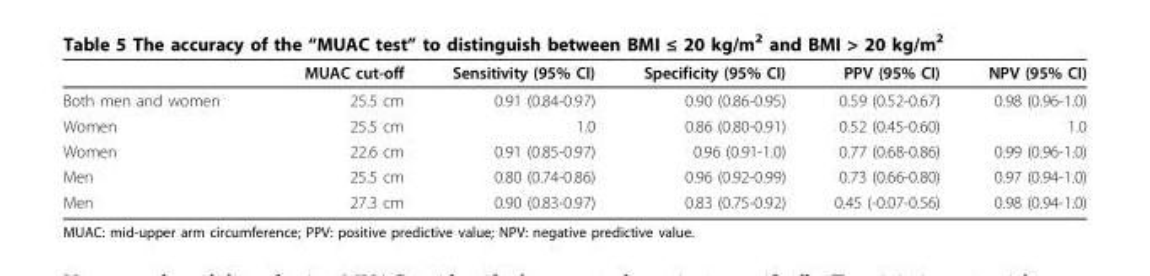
<table><thead><tr><td></td><td>MUAC cut-off</td><td>Sensitivity (95% CI)</td><td>Specificity (95% CI)</td><td>PPV (95% CI)</td><td>NPV (95% CI)</td></tr></thead><tbody><tr><td>Both men and women</td><td>25.5 cm</td><td>0.91 (0.84-0.97)</td><td>0.90 (0.86-0.95)</td><td>0.59 (0.52-0.67)</td><td>0.98 (0.96-1.0)</td></tr><tr><td>Women</td><td>25.5 cm</td><td>1.0</td><td>0.86 (0.80-0.91)</td><td>0.52 (0.45-0.60)</td><td>1.0</td></tr><tr><td>Women</td><td>22.6 cm</td><td>0.91 (0.85-0.97)</td><td>0.96 (0.91-1.0)</td><td>0.77 (0.68-0.86)</td><td>0.99 (0.96-1.0)</td></tr><tr><td>Men</td><td>25.5 cm</td><td>0.80 (0.74-0.86)</td><td>0.96 (0.92-0.99)</td><td>0.73 (0.66-0.80)</td><td>0.97 (0.94-1.0)</td></tr><tr><td>Men</td><td>27.3 cm</td><td>0.90 (0.83-0.97)</td><td>0.83 (0.75-0.92)</td><td>0.45 (-0.07-0.56)</td><td>0.98 (0.94-1.0)</td></tr></tbody></table>